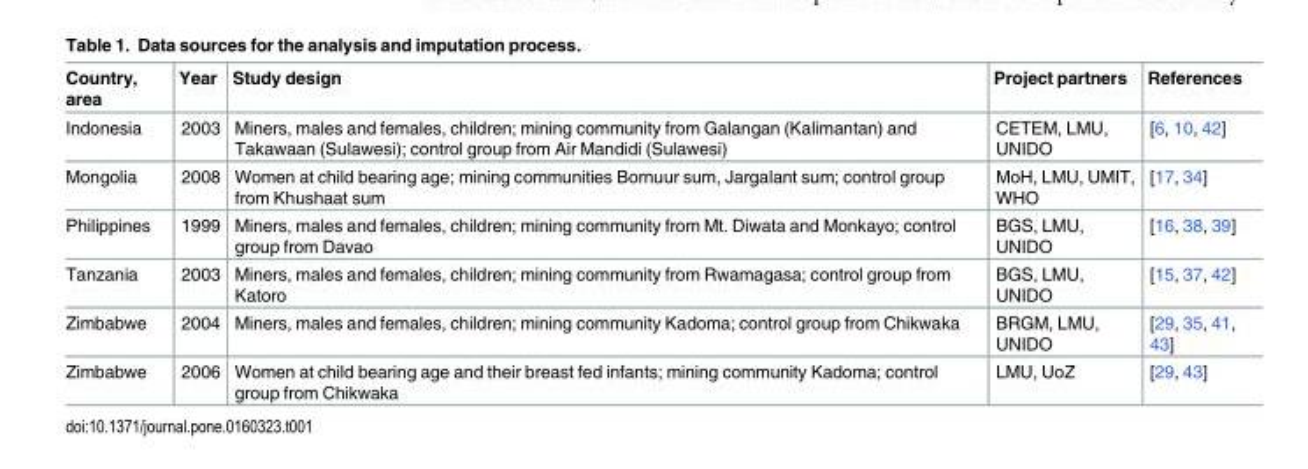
<table><thead><tr><td>Country, area</td><td>Year</td><td>Study design</td><td>Project partners</td><td>References</td></tr></thead><tbody><tr><td>Indonesia</td><td>2003</td><td>Miners, males and females, children; mining community from Galangan (Kalimantan) and Takawaan (Sulawesi); control group from Air Mandidi (Sulawesi)</td><td>CETEM, LMU, UNIDO</td><td>[6, 10, 42]</td></tr><tr><td>Mongolia</td><td>2008</td><td>Women at child bearing age; mining communities Bornuur sum, Jargalant sum; control group from Khushaat sum</td><td>MoH, LMU, UMIT, WHO</td><td>[17, 34]</td></tr><tr><td>Philippines</td><td>1999</td><td>Miners, males and females, children; mining community from Mt. Diwata and Monkayo; control group from Davao</td><td>BGS, LMU, UNIDO</td><td>[16, 38, 39]</td></tr><tr><td>Tanzania</td><td>2003</td><td>Miners, males and females, children; mining community from Rwamagasa; control group from Katoro</td><td>BGS, LMU, UNIDO</td><td>[15, 37, 42]</td></tr><tr><td>Zimbabwe</td><td>2004</td><td>Miners, males and females, children; mining community Kadoma; control group from Chikwaka</td><td>BRGM, LMU, UNIDO</td><td>[29, 35, 41, 43]</td></tr><tr><td>Zimbabwe</td><td>2006</td><td>Women at child bearing age and their breast fed infants; mining community Kadoma; control group from Chikwaka</td><td>LMU, UoZ</td><td>[29, 43]</td></tr></tbody></table>